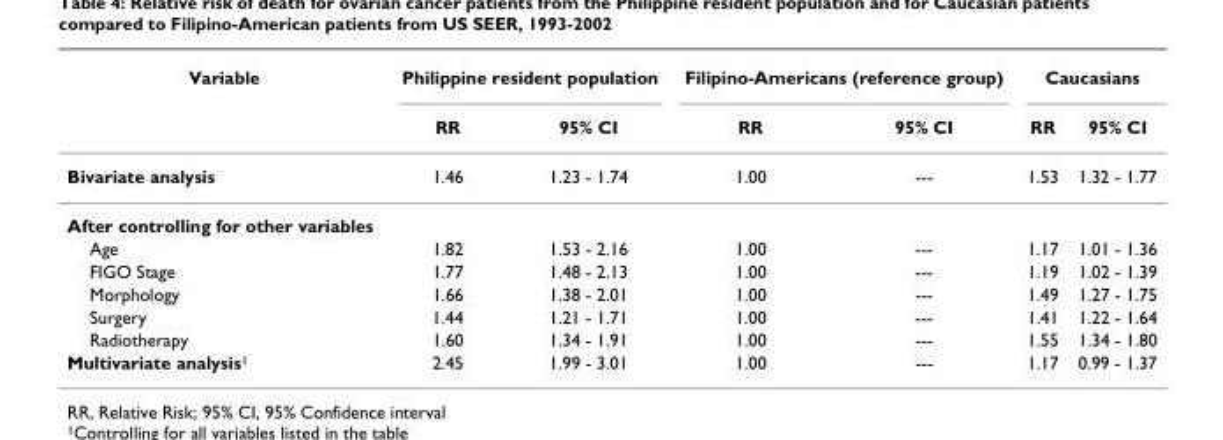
<table><tbody><tr><td rowspan="2">Variable</td><td colspan="2">Philippine resident population</td><td colspan="2">Filipino-Americans (reference group)</td><td colspan="2">Caucasians</td></tr><tr><td>RR</td><td>95% CI</td><td>RR</td><td>95% CI</td><td>RR</td><td>95% CI</td></tr><tr><td>Bivariate analysis</td><td>1.46</td><td>1.23 - 1.74</td><td>1.00</td><td>---</td><td>1.53</td><td>1.32 - 1.77</td></tr><tr><td colspan="7">After controlling for other variables</td></tr><tr><td>Age</td><td>1.82</td><td>1.53 - 2.16</td><td>1.00</td><td>---</td><td>1.17</td><td>1.01 - 1.36</td></tr><tr><td>FIGO Stage</td><td>1.77</td><td>1.48 - 2.13</td><td>1.00</td><td>---</td><td>1.19</td><td>1.02 - 1.39</td></tr><tr><td>Morphology</td><td>1.66</td><td>1.38 - 2.01</td><td>1.00</td><td>---</td><td>1.49</td><td>1.27 - 1.75</td></tr><tr><td>Surgery</td><td>1.44</td><td>1.21 - 1.71</td><td>1.00</td><td>---</td><td>1.41</td><td>1.22 - 1.64</td></tr><tr><td>Radiotherapy</td><td>1.60</td><td>1.34 - 1.91</td><td>1.00</td><td>---</td><td>1.55</td><td>1.34 - 1.80</td></tr><tr><td>Multivariate analysis<sup>1</sup></td><td>2.45</td><td>1.99 - 3.01</td><td>1.00</td><td>---</td><td>1.17</td><td>0.99 - 1.37</td></tr></tbody></table>